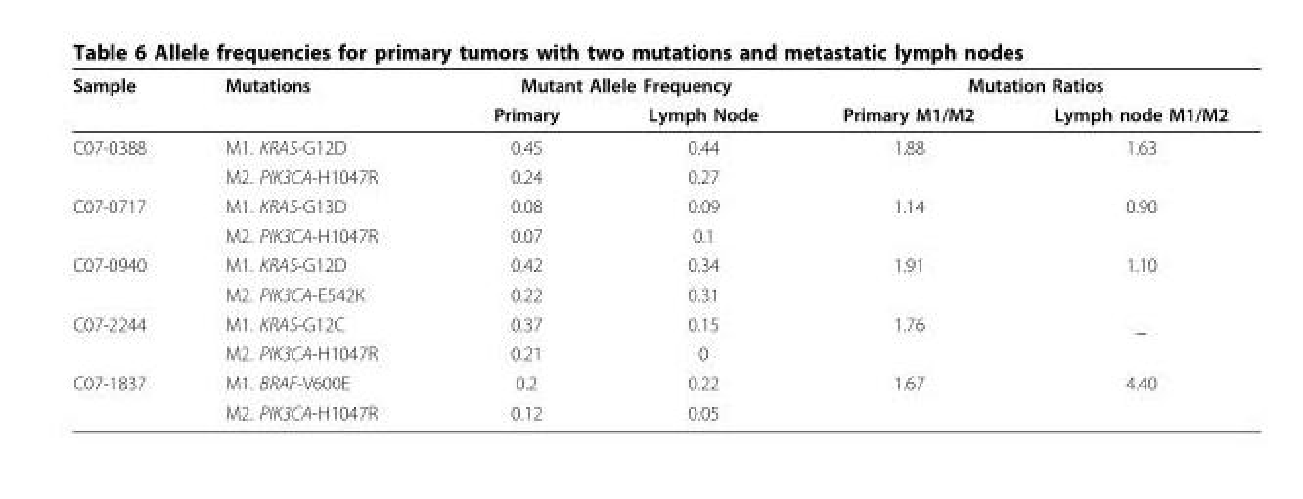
<table><thead><tr><td rowspan="2">Sample</td><td rowspan="2">Mutations</td><td colspan="2">Mutant Allele Frequency</td><td colspan="2">Mutation Ratios</td></tr><tr><td>Primary</td><td>Lymph Node</td><td>Primary M1/M2</td><td>Lymph node M1/M2</td></tr></thead><tbody><tr><td rowspan="2">C07-0388</td><td>M1. KRAS-G12D</td><td>0.45</td><td>0.44</td><td>1.88</td><td>1.63</td></tr><tr><td>M2. PIK3CA-H1047R</td><td>0.24</td><td>0.27</td><td></td><td></td></tr><tr><td rowspan="2">C07-0717</td><td>M1. KRAS-G13D</td><td>0.08</td><td>0.09</td><td>1.14</td><td>0.90</td></tr><tr><td>M2. PIK3CA-H1047R</td><td>0.07</td><td>0.1</td><td></td><td></td></tr><tr><td rowspan="2">C07-0940</td><td>M1. KRAS-G12D</td><td>0.42</td><td>0.34</td><td>1.91</td><td>1.10</td></tr><tr><td>M2. PIK3CA-E542K</td><td>0.22</td><td>0.31</td><td></td><td></td></tr><tr><td rowspan="2">C07-2244</td><td>M1. KRAS-G12C</td><td>0.37</td><td>0.15</td><td>1.76</td><td>_</td></tr><tr><td>M2. PIK3CA-H1047R</td><td>0.21</td><td>0</td><td></td><td></td></tr><tr><td rowspan="2">C07-1837</td><td>M1. BRAF-V600E</td><td>0.2</td><td>0.22</td><td>1.67</td><td>4.40</td></tr><tr><td>M2. PIK3CA-H1047R</td><td>0.12</td><td>0.05</td><td></td><td></td></tr></tbody></table>